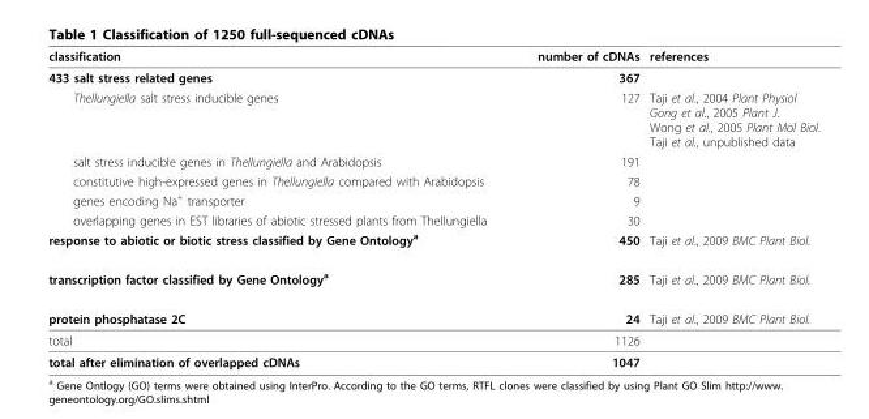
<table><thead><tr><td>classification</td><td>number of cDNAs</td><td>references</td></tr></thead><tbody><tr><td>433 salt stress related genes</td><td>367</td><td></td></tr><tr><td>Thellungiella salt stress inducible genes</td><td>127</td><td>Taji et al., 2004 Plant Physiol Gong et al., 2005 Plant J. Wong et al., 2005 Plant Mol Biol. Taji et al., unpublished data</td></tr><tr><td>salt stress inducible genes in Thellungiella and Arabidopsis</td><td>191</td><td></td></tr><tr><td>constitutive high-expressed genes in Thellungiella compared with Arabidopsis</td><td>78</td><td></td></tr><tr><td>genes encoding Na<sup>+</sup> transporter</td><td>9</td><td></td></tr><tr><td>overlapping genes in EST libraries of abiotic stressed plants from Thellungiella</td><td>30</td><td></td></tr><tr><td>response to abiotic or biotic stress classified by Gene Ontology<sup>a</sup></td><td>450</td><td>Taji et al., 2009 BMC Plant Biol.</td></tr><tr><td>transcription factor classified by Gene Ontology<sup>a</sup></td><td>285</td><td>Taji et al., 2009 BMC Plant Biol.</td></tr><tr><td>protein phosphatase 2C</td><td>24</td><td>Taji et al., 2009 BMC Plant Biol.</td></tr><tr><td>total</td><td>1126</td><td></td></tr><tr><td>total after elimination of overlapped cDNAs</td><td>1047</td><td></td></tr></tbody></table>